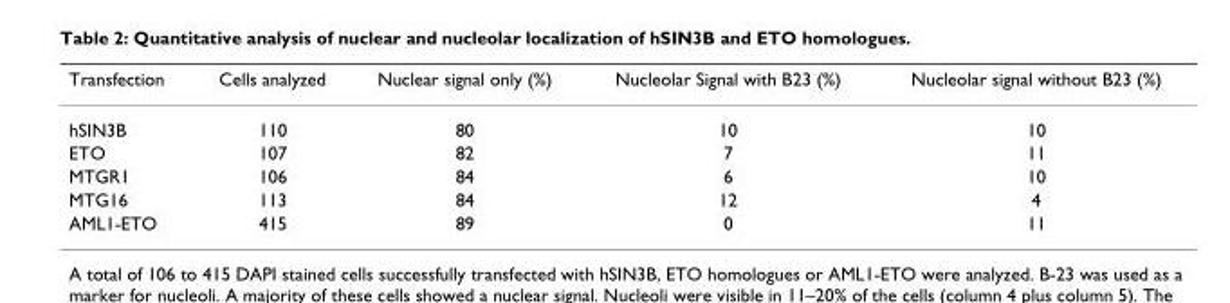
<table><thead><tr><td>Transfection</td><td>Cells analyzed</td><td>Nuclear signal only (%)</td><td>Nucleolar Signal with B23 (%)</td><td>Nucleolar signal without B23 (%)</td></tr></thead><tbody><tr><td>hSIN3B</td><td>110</td><td>80</td><td>10</td><td>10</td></tr><tr><td>ETO</td><td>107</td><td>82</td><td>7</td><td>11</td></tr><tr><td>MTGR1</td><td>106</td><td>84</td><td>6</td><td>10</td></tr><tr><td>MTG16</td><td>113</td><td>84</td><td>12</td><td>4</td></tr><tr><td>AML1-ETO</td><td>415</td><td>89</td><td>0</td><td>11</td></tr></tbody></table>